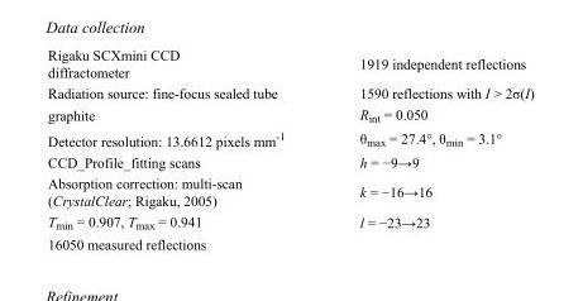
<table><tbody><tr><td>Rigaku SCXmini CCD diffractometer</td><td>1919 independent reflections</td></tr><tr><td>Radiation source: fine-focus sealed tube</td><td>1590 reflections with I &gt; 2σ(I)</td></tr><tr><td>graphite</td><td>R<sub>int</sub> = 0.050</td></tr><tr><td>Detector resolution: 13.6612 pixels mm<sup>-1</sup></td><td>θ<sub>max</sub> = 27.4°, θ<sub>min</sub> = 3.1°</td></tr><tr><td>CCD_Profile_fitting scans</td><td>h = −9→9</td></tr><tr><td>Absorption correction: multi-scan (CrystalClear; Rigaku, 2005)</td><td>k = −16→16</td></tr><tr><td>T<sub>min</sub> = 0.907, T<sub>max</sub> = 0.941</td><td>l = −23→23</td></tr><tr><td>16050 measured reflections</td><td></td></tr></tbody></table>